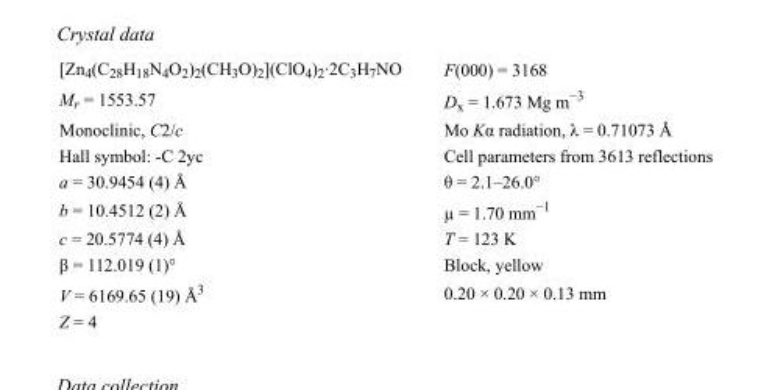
<table><tbody><tr><td>[Zn<sub>4</sub>(C<sub>28</sub>H<sub>18</sub>N<sub>4</sub>O<sub>2</sub>)<sub>2</sub>(CH<sub>3</sub>O)<sub>2</sub>](ClO<sub>4</sub>)<sub>2</sub>·2C<sub>3</sub>H<sub>7</sub>NO</td><td>F(000) = 3168</td></tr><tr><td>M<sub>r</sub> = 1553.57</td><td>D<sub>x</sub> = 1.673 Mg m<sup>−3</sup></td></tr><tr><td>Monoclinic, C2/c</td><td>Mo Kα radiation, λ = 0.71073 Å</td></tr><tr><td>Hall symbol: -C 2yc</td><td>Cell parameters from 3613 reflections</td></tr><tr><td>a = 30.9454 (4) Å</td><td>θ = 2.1–26.0°</td></tr><tr><td>b = 10.4512 (2) Å</td><td>µ = 1.70 mm<sup>−1</sup></td></tr><tr><td>c = 20.5774 (4) Å</td><td>T = 123 K</td></tr><tr><td>β = 112.019 (1)°</td><td>Block, yellow</td></tr><tr><td>V = 6169.65 (19) Å<sup>3</sup></td><td>0.20 × 0.20 × 0.13 mm</td></tr><tr><td>Z = 4</td><td></td></tr></tbody></table>